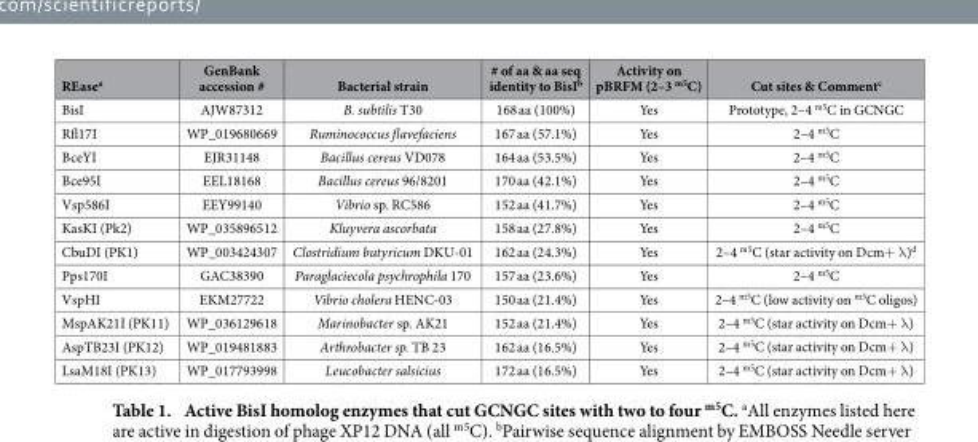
<table><thead><tr><td>REase<sup>a</sup></td><td>GenBank accession #</td><td>Bacterial strain</td><td># of aa &amp; aa seq identity to BisI<sup>b</sup></td><td>Activity on pBRFM (2–3 <sup>m5</sup>C)</td><td>Cut sites &amp; Comment<sup>c</sup></td></tr></thead><tbody><tr><td>BisI</td><td>AJW87312</td><td>B. subtilis T30</td><td>168 aa (100%)</td><td>Yes</td><td>Prototype, 2–4 <sup>m5</sup>C in GCNGC</td></tr><tr><td>Rfl17I</td><td>WP_019680669</td><td>Ruminococcus flavefaciens</td><td>167 aa (57.1%)</td><td>Yes</td><td>2–4 <sup>m5</sup>C</td></tr><tr><td>BceYI</td><td>EJR31148</td><td>Bacillus cereus VD078</td><td>164 aa (53.5%)</td><td>Yes</td><td>2–4 <sup>m5</sup>C</td></tr><tr><td>Bce95I</td><td>EEL18168</td><td>Bacillus cereus 96/8201</td><td>170 aa (42.1%)</td><td>Yes</td><td>2–4 <sup>m5</sup>C</td></tr><tr><td>Vsp586I</td><td>EEY99140</td><td>Vibrio sp. RC586</td><td>152 aa (41.7%)</td><td>Yes</td><td>2–4 <sup>m5</sup>C</td></tr><tr><td>KasKI (Pk2)</td><td>WP_035896512</td><td>Kluyvera ascorbata</td><td>158 aa (27.8%)</td><td>Yes</td><td>2–4 <sup>m5</sup>C</td></tr><tr><td>CbuDI (PK1)</td><td>WP_003424307</td><td>Clostridium butyricum DKU-01</td><td>162 aa (24.3%)</td><td>Yes</td><td>2–4 <sup>m5</sup>C (star activity on Dcm+ λ )<sup>d</sup></td></tr><tr><td>Pps170I</td><td>GAC38390</td><td>Paraglaciecola psychrophila 170</td><td>157 aa (23.6%)</td><td>Yes</td><td>2–4 <sup>m5</sup>C</td></tr><tr><td>VspHI</td><td>EKM27722</td><td>Vibrio cholera HENC-03</td><td>150 aa (21.4%)</td><td>Yes</td><td>2–4 <sup>m5</sup>C (low activity on <sup>m5</sup>C oligos)</td></tr><tr><td>MspAK21I (PK11)</td><td>WP_036129618</td><td>Marinobacter sp. AK21</td><td>152 aa (21.4%)</td><td>Yes</td><td>2–4 <sup>m5</sup>C (star activity on Dcm+ λ )</td></tr><tr><td>AspTB23I (PK12)</td><td>WP_019481883</td><td>Arthrobacter sp. TB 23</td><td>162 aa (16.5%)</td><td>Yes</td><td>2–4 <sup>m5</sup>C (star activity on Dcm+ λ )</td></tr><tr><td>LsaM18I (PK13)</td><td>WP_017793998</td><td>Leucobacter salsicius</td><td>172 aa (16.5%)</td><td>Yes</td><td>2–4 <sup>m5</sup>C (star activity on Dcm+ λ )</td></tr></tbody></table>